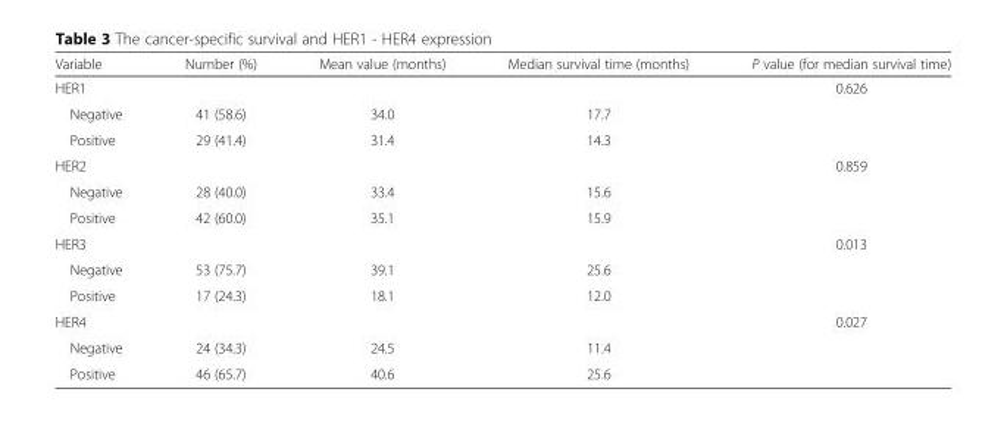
<table><thead><tr><td>Variable</td><td>Number (%)</td><td>Mean value (months)</td><td>Median survival time (months)</td><td>P value (for median survival time)</td></tr></thead><tbody><tr><td>HER1</td><td></td><td></td><td></td><td>0.626</td></tr><tr><td>Negative</td><td>41 (58.6)</td><td>34.0</td><td>17.7</td><td></td></tr><tr><td>Positive</td><td>29 (41.4)</td><td>31.4</td><td>14.3</td><td></td></tr><tr><td>HER2</td><td></td><td></td><td></td><td>0.859</td></tr><tr><td>Negative</td><td>28 (40.0)</td><td>33.4</td><td>15.6</td><td></td></tr><tr><td>Positive</td><td>42 (60.0)</td><td>35.1</td><td>15.9</td><td></td></tr><tr><td>HER3</td><td></td><td></td><td></td><td>0.013</td></tr><tr><td>Negative</td><td>53 (75.7)</td><td>39.1</td><td>25.6</td><td></td></tr><tr><td>Positive</td><td>17 (24.3)</td><td>18.1</td><td>12.0</td><td></td></tr><tr><td>HER4</td><td></td><td></td><td></td><td>0.027</td></tr><tr><td>Negative</td><td>24 (34.3)</td><td>24.5</td><td>11.4</td><td></td></tr><tr><td>Positive</td><td>46 (65.7)</td><td>40.6</td><td>25.6</td><td></td></tr></tbody></table>